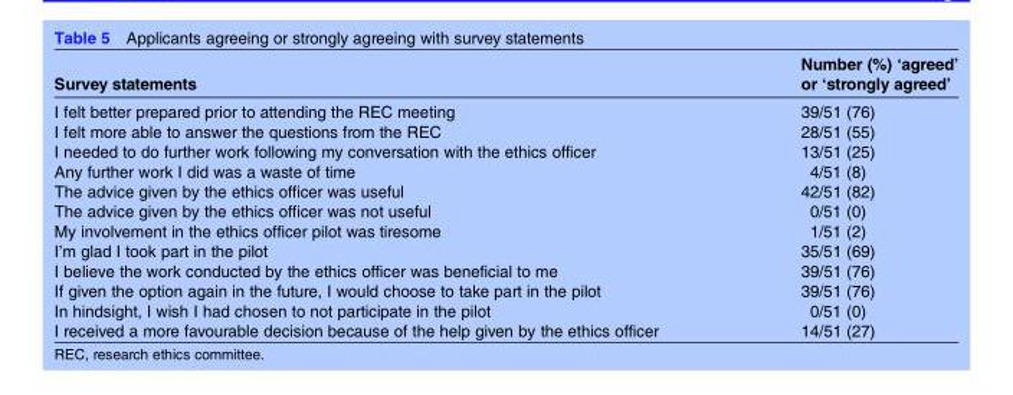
<table><thead><tr><td>Survey statements</td><td>Number (%) ‘agreed’ or ‘strongly agreed’</td></tr></thead><tbody><tr><td>I felt better prepared prior to attending the REC meeting</td><td>39/51 (76)</td></tr><tr><td>I felt more able to answer the questions from the REC</td><td>28/51 (55)</td></tr><tr><td>I needed to do further work following my conversation with the ethics officer</td><td>13/51 (25)</td></tr><tr><td>Any further work I did was a waste of time</td><td>4/51 (8)</td></tr><tr><td>The advice given by the ethics officer was useful</td><td>42/51 (82)</td></tr><tr><td>The advice given by the ethics officer was not useful</td><td>0/51 (0)</td></tr><tr><td>My involvement in the ethics officer pilot was tiresome</td><td>1/51 (2)</td></tr><tr><td>I’m glad I took part in the pilot</td><td>35/51 (69)</td></tr><tr><td>I believe the work conducted by the ethics officer was beneficial to me</td><td>39/51 (76)</td></tr><tr><td>If given the option again in the future, I would choose to take part in the pilot</td><td>39/51 (76)</td></tr><tr><td>In hindsight, I wish I had chosen to not participate in the pilot</td><td>0/51 (0)</td></tr><tr><td>I received a more favourable decision because of the help given by the ethics officer</td><td>14/51 (27)</td></tr></tbody></table>